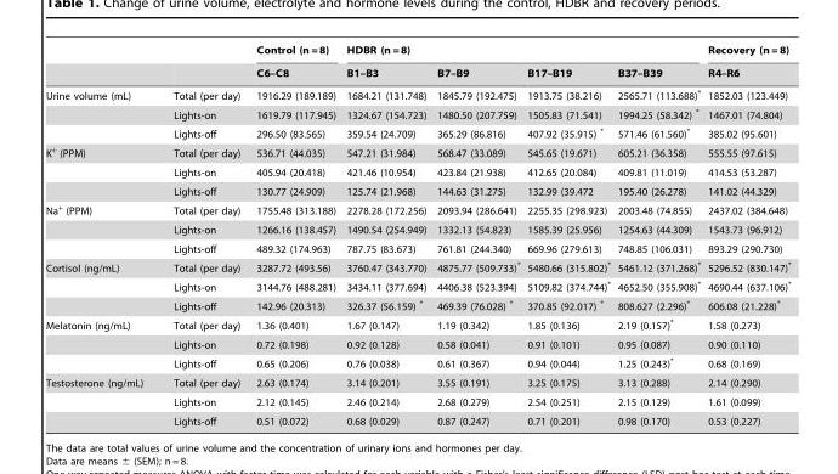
<table><thead><tr><td rowspan="2"></td><td rowspan="2"></td><td rowspan="2">Control (n = 8) C6–C8</td><td colspan="4">HDBR (n = 8)</td><td rowspan="2">Recovery (n = 8) R4–R6</td></tr><tr><td>B1–B3</td><td>B7–B9</td><td>B17–B19</td><td>B37–B39</td></tr></thead><tbody><tr><td rowspan="3">Urine volume (mL)</td><td>Total (per day)</td><td>1916.29 (189.189)</td><td>1684.21 (131.748)</td><td>1845.79 (192.475)</td><td>1913.75 (38.216)</td><td>2565.71 (113.688)*</td><td>1852.03 (123.449)</td></tr><tr><td>Lights-on</td><td>1619.79 (117.945)</td><td>1324.67 (154.723)</td><td>1480.50 (207.759)</td><td>1505.83 (71.541)</td><td>1994.25 (58.342) *</td><td>1467.01 (74.804)</td></tr><tr><td>Lights-off</td><td>296.50 (83.565)</td><td>359.54 (24.709)</td><td>365.29 (86.816)</td><td>407.92 (35.915) *</td><td>571.46 (61.560)*</td><td>385.02 (95.601)</td></tr><tr><td rowspan="3">K<sup>+</sup> (PPM)</td><td>Total (per day)</td><td>536.71 (44.035)</td><td>547.21 (31.984)</td><td>568.47 (33.089)</td><td>545.65 (19.671)</td><td>605.21 (36.358)</td><td>555.55 (97.615)</td></tr><tr><td>Lights-on</td><td>405.94 (20.418)</td><td>421.46 (10.954)</td><td>423.84 (21.938)</td><td>412.65 (20.084)</td><td>409.81 (11.019)</td><td>414.53 (53.287)</td></tr><tr><td>Lights-off</td><td>130.77 (24.909)</td><td>125.74 (21.968)</td><td>144.63 (31.275)</td><td>132.99 (39.472</td><td>195.40 (26.278)</td><td>141.02 (44.329)</td></tr><tr><td rowspan="3">Na<sup>+</sup> (PPM)</td><td>Total (per day)</td><td>1755.48 (313.188)</td><td>2278.28 (172.256)</td><td>2093.94 (286.641)</td><td>2255.35 (298.923)</td><td>2003.48 (74.855)</td><td>2437.02 (384.648)</td></tr><tr><td>Lights-on</td><td>1266.16 (138.457)</td><td>1490.54 (254.949)</td><td>1332.13 (54.823)</td><td>1585.39 (25.956)</td><td>1254.63 (44.309)</td><td>1543.73 (96.912)</td></tr><tr><td>Lights-off</td><td>489.32 (174.963)</td><td>787.75 (83.673)</td><td>761.81 (244.340)</td><td>669.96 (279.613)</td><td>748.85 (106.031)</td><td>893.29 (290.730)</td></tr><tr><td rowspan="3">Cortisol (ng/mL)</td><td>Total (per day)</td><td>3287.72 (493.56)</td><td>3760.47 (343.770)</td><td>4875.77 (509.733)*</td><td>5480.66 (315.802)*</td><td>5461.12 (371.268)*</td><td>5296.52 (830.147)*</td></tr><tr><td>Lights-on</td><td>3144.76 (488.281)</td><td>3434.11 (377.694)</td><td>4406.38 (523.394)</td><td>5109.82 (374.744)*</td><td>4652.50 (355.908)*</td><td>4690.44 (637.106)*</td></tr><tr><td>Lights-off</td><td>142.96 (20.313)</td><td>326.37 (56.159) *</td><td>469.39 (76.028) *</td><td>370.85 (92.017) *</td><td>808.627 (2.296)*</td><td>606.08 (21.228)*</td></tr><tr><td rowspan="3">Melatonin (ng/mL)</td><td>Total (per day)</td><td>1.36 (0.401)</td><td>1.67 (0.147)</td><td>1.19 (0.342)</td><td>1.85 (0.136)</td><td>2.19 (0.157)*</td><td>1.58 (0.273)</td></tr><tr><td>Lights-on</td><td>0.72 (0.198)</td><td>0.92 (0.128)</td><td>0.58 (0.041)</td><td>0.91 (0.101)</td><td>0.95 (0.087)</td><td>0.90 (0.110)</td></tr><tr><td>Lights-off</td><td>0.65 (0.206)</td><td>0.76 (0.038)</td><td>0.61 (0.367)</td><td>0.94 (0.044)</td><td>1.25 (0.243)*</td><td>0.68 (0.169)</td></tr><tr><td rowspan="3">Testosterone (ng/mL)</td><td>Total (per day)</td><td>2.63 (0.174)</td><td>3.14 (0.201)</td><td>3.55 (0.191)</td><td>3.25 (0.175)</td><td>3.13 (0.288)</td><td>2.14 (0.290)</td></tr><tr><td>Lights-on</td><td>2.12 (0.145)</td><td>2.46 (0.214)</td><td>2.68 (0.279)</td><td>2.54 (0.251)</td><td>2.15 (0.129)</td><td>1.61 (0.099)</td></tr><tr><td>Lights-off</td><td>0.51 (0.072)</td><td>0.68 (0.029)</td><td>0.87 (0.247)</td><td>0.71 (0.201)</td><td>0.98 (0.170)</td><td>0.53 (0.227)</td></tr></tbody></table>